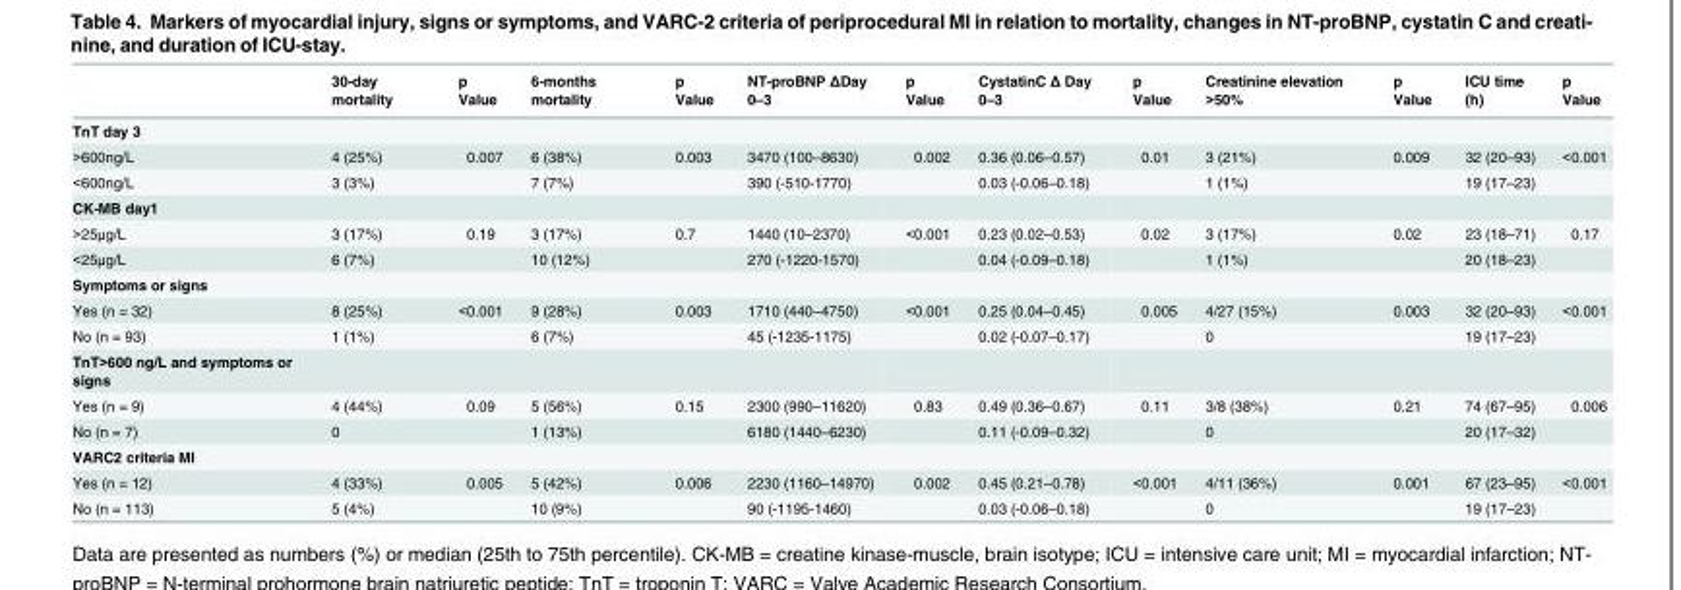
<table><thead><tr><td></td><td>30-day mortality</td><td>p Value</td><td>6-months mortality</td><td>p Value</td><td>NT-proBNP ΔDay 0–3</td><td>p Value</td><td>CystatinC Δ Day 0–3</td><td>p Value</td><td>Creatinine elevation &gt;50%</td><td>p Value</td><td>ICU time (h)</td><td>p Value</td></tr></thead><tbody><tr><td colspan="13">TnT day 3</td></tr><tr><td>&gt;600ng/L</td><td>4 (25%)</td><td>0.007</td><td>6 (38%)</td><td>0.003</td><td>3470 (100–8630)</td><td>0.002</td><td>0.36 (0.06–0.57)</td><td>0.01</td><td>3 (21%)</td><td>0.009</td><td>32 (20–93)</td><td>&lt;0.001</td></tr><tr><td>&lt;600ng/L</td><td>3 (3%)</td><td></td><td>7 (7%)</td><td></td><td>390 (-510-1770)</td><td></td><td>0.03 (-0.06–0.18)</td><td></td><td>1 (1%)</td><td></td><td>19 (17–23)</td><td></td></tr><tr><td colspan="13">CK-MB day1</td></tr><tr><td>&gt;25μg/L</td><td>3 (17%)</td><td>0.19</td><td>3 (17%)</td><td>0.7</td><td>1440 (10–2370)</td><td>&lt;0.001</td><td>0.23 (0.02–0.53)</td><td>0.02</td><td>3 (17%)</td><td>0.02</td><td>23 (18–71)</td><td>0.17</td></tr><tr><td>&lt;25μg/L</td><td>6 (7%)</td><td></td><td>10 (12%)</td><td></td><td>270 (-1220-1570)</td><td></td><td>0.04 (-0.09–0.18)</td><td></td><td>1 (1%)</td><td></td><td>20 (18–23)</td><td></td></tr><tr><td colspan="13">Symptoms or signs</td></tr><tr><td>Yes (n = 32)</td><td>8 (25%)</td><td>&lt;0.001</td><td>9 (28%)</td><td>0.003</td><td>1710 (440–4750)</td><td>&lt;0.001</td><td>0.25 (0.04–0.45)</td><td>0.005</td><td>4/27 (15%)</td><td>0.003</td><td>32 (20–93)</td><td>&lt;0.001</td></tr><tr><td>No (n = 93)</td><td>1 (1%)</td><td></td><td>6 (7%)</td><td></td><td>45 (-1235-1175)</td><td></td><td>0.02 (-0.07–0.17)</td><td></td><td>0</td><td></td><td>19 (17–23)</td><td></td></tr><tr><td colspan="13">TnT&gt;600 ng/L and symptoms or signs</td></tr><tr><td>Yes (n = 9)</td><td>4 (44%)</td><td>0.09</td><td>5 (56%)</td><td>0.15</td><td>2300 (990–11620)</td><td>0.83</td><td>0.49 (0.36–0.67)</td><td>0.11</td><td>3/8 (38%)</td><td>0.21</td><td>74 (67–95)</td><td>0.006</td></tr><tr><td>No (n = 7)</td><td>0</td><td></td><td>1 (13%)</td><td></td><td>6180 (1440–6230)</td><td></td><td>0.11 (-0.09–0.32)</td><td></td><td>0</td><td></td><td>20 (17–32)</td><td></td></tr><tr><td colspan="13">VARC2 criteria MI</td></tr><tr><td>Yes (n = 12)</td><td>4 (33%)</td><td>0.005</td><td>5 (42%)</td><td>0.006</td><td>2230 (1160–14970)</td><td>0.002</td><td>0.45 (0.21–0.78)</td><td>&lt;0.001</td><td>4/11 (36%)</td><td>0.001</td><td>67 (23–95)</td><td>&lt;0.001</td></tr><tr><td>No (n = 113)</td><td>5 (4%)</td><td></td><td>10 (9%)</td><td></td><td>90 (-1195-1460)</td><td></td><td>0.03 (-0.06–0.18)</td><td></td><td>0</td><td></td><td>19 (17–23)</td><td></td></tr></tbody></table>